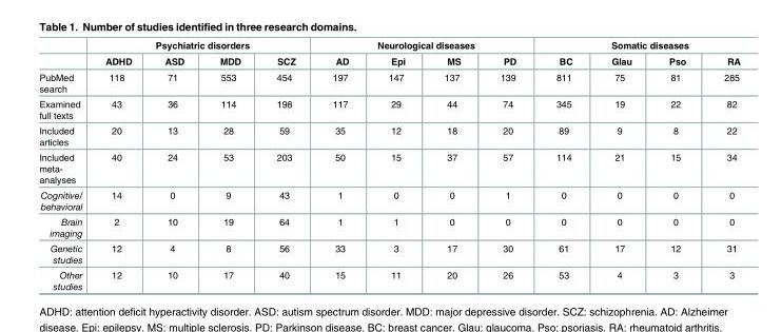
<table><thead><tr><td rowspan="2"></td><td colspan="4">Psychiatric disorders</td><td colspan="4">Neurological diseases</td><td colspan="4">Somatic diseases</td></tr><tr><td>ADHD</td><td>ASD</td><td>MDD</td><td>SCZ</td><td>AD</td><td>Epi</td><td>MS</td><td>PD</td><td>BC</td><td>Glau</td><td>Pso</td><td>RA</td></tr></thead><tbody><tr><td>PubMed search</td><td>118</td><td>71</td><td>553</td><td>454</td><td>197</td><td>147</td><td>137</td><td>139</td><td>811</td><td>75</td><td>81</td><td>285</td></tr><tr><td>Examined full texts</td><td>43</td><td>36</td><td>114</td><td>198</td><td>117</td><td>29</td><td>44</td><td>74</td><td>345</td><td>19</td><td>22</td><td>82</td></tr><tr><td>Included articles</td><td>20</td><td>13</td><td>28</td><td>59</td><td>35</td><td>12</td><td>18</td><td>20</td><td>89</td><td>9</td><td>8</td><td>22</td></tr><tr><td>Included meta- analyses</td><td>40</td><td>24</td><td>53</td><td>203</td><td>50</td><td>15</td><td>37</td><td>57</td><td>114</td><td>21</td><td>15</td><td>34</td></tr><tr><td>Cognitive/ behavioral</td><td>14</td><td>0</td><td>9</td><td>43</td><td>1</td><td>0</td><td>0</td><td>1</td><td>0</td><td>0</td><td>0</td><td>0</td></tr><tr><td>Brain imaging</td><td>2</td><td>10</td><td>19</td><td>64</td><td>1</td><td>1</td><td>0</td><td>0</td><td>0</td><td>0</td><td>0</td><td>0</td></tr><tr><td>Genetic studies</td><td>12</td><td>4</td><td>8</td><td>56</td><td>33</td><td>3</td><td>17</td><td>30</td><td>61</td><td>17</td><td>12</td><td>31</td></tr><tr><td>Other studies</td><td>12</td><td>10</td><td>17</td><td>40</td><td>15</td><td>11</td><td>20</td><td>26</td><td>53</td><td>4</td><td>3</td><td>3</td></tr></tbody></table>